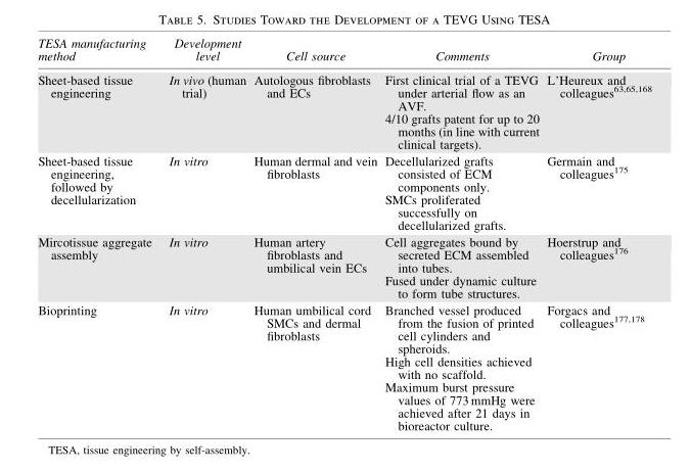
<table><thead><tr><td>TESA manufacturing method</td><td>Development level</td><td>Cell source</td><td>Comments</td><td>Group</td></tr></thead><tbody><tr><td>Sheet-based tissue engineering</td><td>In vivo (human trial)</td><td>Autologous fibroblasts and ECs</td><td>First clinical trial of a TEVG under arterial flow as an AVF. 4/10 grafts patent for up to 20 months (in line with current clinical targets).</td><td>L’Heureux and colleagues<sup>63,65,168</sup></td></tr><tr><td>Sheet-based tissue engineering, followed by decellularization</td><td>In vitro</td><td>Human dermal and vein fibroblasts</td><td>Decellularized grafts consisted of ECM components only. SMCs proliferated successfully on decellularized grafts.</td><td>Germain and colleagues<sup>175</sup></td></tr><tr><td>Mircotissue aggregate assembly</td><td>In vitro</td><td>Human artery fibroblasts and umbilical vein ECs</td><td>Cell aggregates bound by secreted ECM assembled into tubes. Fused under dynamic culture to form tube structures.</td><td>Hoerstrup and colleagues<sup>176</sup></td></tr><tr><td>Bioprinting</td><td>In vitro</td><td>Human umbilical cord SMCs and dermal fibroblasts</td><td>Branched vessel produced from the fusion of printed cell cylinders and spheroids. High cell densities achieved with no scaffold. Maximum burst pressure values of 773 mmHg were achieved after 21 days in bioreactor culture.</td><td>Forgacs and colleagues<sup>177,178</sup></td></tr></tbody></table>